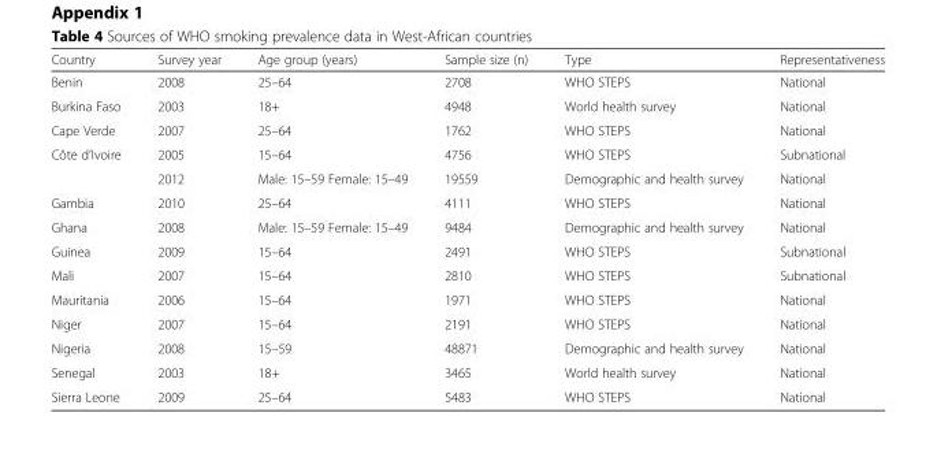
<table><thead><tr><td>Country</td><td>Survey year</td><td>Age group (years)</td><td>Sample size (n)</td><td>Type</td><td>Representativeness</td></tr></thead><tbody><tr><td>Benin</td><td>2008</td><td>25–64</td><td>2708</td><td>WHO STEPS</td><td>National</td></tr><tr><td>Burkina Faso</td><td>2003</td><td>18+</td><td>4948</td><td>World health survey</td><td>National</td></tr><tr><td>Cape Verde</td><td>2007</td><td>25–64</td><td>1762</td><td>WHO STEPS</td><td>National</td></tr><tr><td rowspan="2">Côte d’Ivoire</td><td>2005</td><td>15–64</td><td>4756</td><td>WHO STEPS</td><td>Subnational</td></tr><tr><td>2012</td><td>Male: 15–59 Female: 15–49</td><td>19559</td><td>Demographic and health survey</td><td>National</td></tr><tr><td>Gambia</td><td>2010</td><td>25–64</td><td>4111</td><td>WHO STEPS</td><td>National</td></tr><tr><td>Ghana</td><td>2008</td><td>Male: 15–59 Female: 15–49</td><td>9484</td><td>Demographic and health survey</td><td>National</td></tr><tr><td>Guinea</td><td>2009</td><td>15–64</td><td>2491</td><td>WHO STEPS</td><td>Subnational</td></tr><tr><td>Mali</td><td>2007</td><td>15–64</td><td>2810</td><td>WHO STEPS</td><td>Subnational</td></tr><tr><td>Mauritania</td><td>2006</td><td>15–64</td><td>1971</td><td>WHO STEPS</td><td>National</td></tr><tr><td>Niger</td><td>2007</td><td>15–64</td><td>2191</td><td>WHO STEPS</td><td>National</td></tr><tr><td>Nigeria</td><td>2008</td><td>15–59</td><td>48871</td><td>Demographic and health survey</td><td>National</td></tr><tr><td>Senegal</td><td>2003</td><td>18+</td><td>3465</td><td>World health survey</td><td>National</td></tr><tr><td>Sierra Leone</td><td>2009</td><td>25–64</td><td>5483</td><td>WHO STEPS</td><td>National</td></tr></tbody></table>